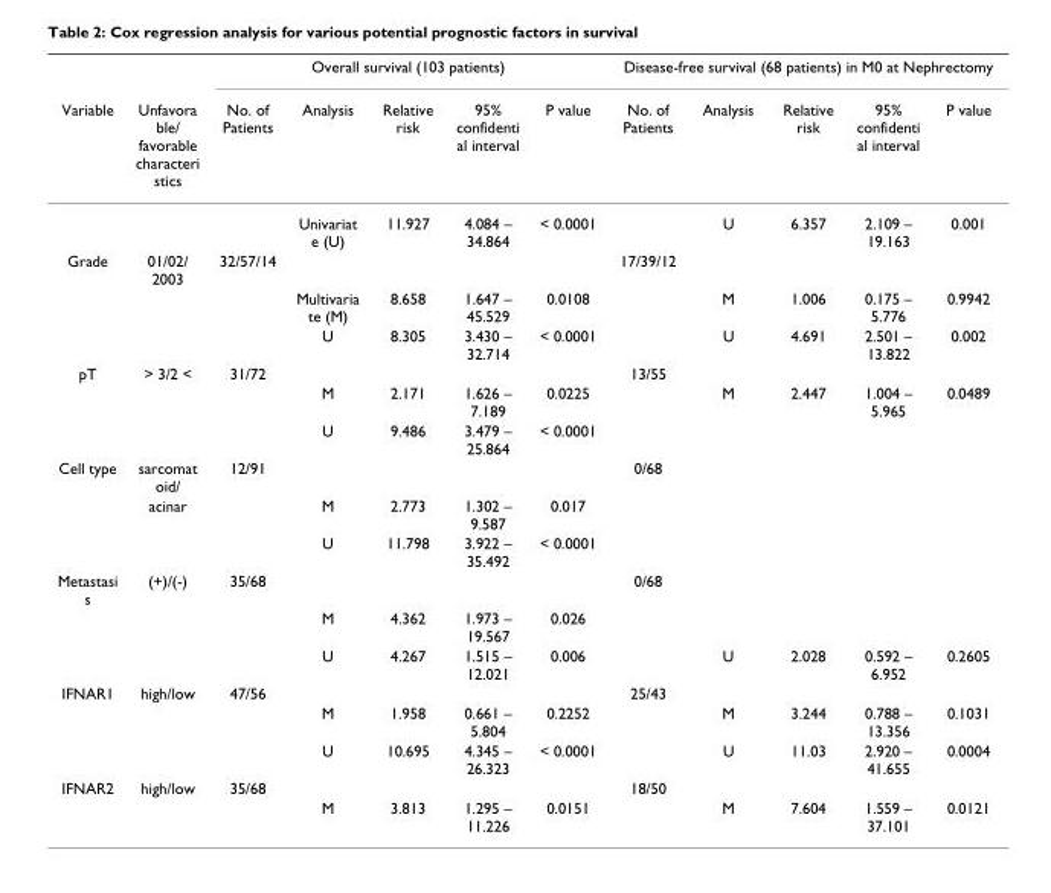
<table><thead><tr><td rowspan="2">Variable</td><td rowspan="2">Unfavora ble/ favorable characteri stics</td><td colspan="5">Overall survival (103 patients)</td><td colspan="5">Disease-free survival (68 patients) in M0 at Nephrectomy</td></tr><tr><td>No. of Patients</td><td>Analysis</td><td>Relative risk</td><td>95% confidenti al interval</td><td>P value</td><td>No. of Patients</td><td>Analysis</td><td>Relative risk</td><td>95% confidenti al interval</td><td>P value</td></tr></thead><tbody><tr><td></td><td></td><td></td><td>Univariat e (U)</td><td>11.927</td><td>4.084 – 34.864</td><td>&lt; 0.0001</td><td></td><td>U</td><td>6.357</td><td>2.109 – 19.163</td><td>0.001</td></tr><tr><td rowspan="3">Grade</td><td>01/02/ 2003</td><td>32/57/14</td><td></td><td></td><td></td><td></td><td>17/39/12</td><td></td><td></td><td></td><td></td></tr><tr><td></td><td></td><td>Multivaria te (M)</td><td>8.658</td><td>1.647 – 45.529</td><td>0.0108</td><td></td><td>M</td><td>1.006</td><td>0.175 – 5.776</td><td>0.9942</td></tr><tr><td></td><td></td><td>U</td><td>8.305</td><td>3.430 – 32.714</td><td>&lt; 0.0001</td><td></td><td>U</td><td>4.691</td><td>2.501 – 13.822</td><td>0.002</td></tr><tr><td rowspan="3">pT</td><td>&gt; 3/2 &lt;</td><td>31/72</td><td></td><td></td><td></td><td></td><td>13/55</td><td></td><td></td><td></td><td></td></tr><tr><td></td><td></td><td>M</td><td>2.171</td><td>1.626 – 7.189</td><td>0.0225</td><td></td><td>M</td><td>2.447</td><td>1.004 – 5.965</td><td>0.0489</td></tr><tr><td></td><td></td><td>U</td><td>9.486</td><td>3.479 – 25.864</td><td>&lt; 0.0001</td><td></td><td></td><td></td><td></td><td></td></tr><tr><td rowspan="3">Cell type</td><td>sarcomat oid/</td><td>12/91</td><td></td><td></td><td></td><td></td><td>0/68</td><td></td><td></td><td></td><td></td></tr><tr><td>acinar</td><td></td><td>M</td><td>2.773</td><td>1.302 – 9.587</td><td>0.017</td><td></td><td></td><td></td><td></td><td></td></tr><tr><td></td><td></td><td>U</td><td>11.798</td><td>3.922 – 35.492</td><td>&lt; 0.0001</td><td></td><td></td><td></td><td></td><td></td></tr><tr><td rowspan="3">Metastasi s</td><td>(+)/(-)</td><td>35/68</td><td></td><td></td><td></td><td></td><td>0/68</td><td></td><td></td><td></td><td></td></tr><tr><td></td><td></td><td>M</td><td>4.362</td><td>1.973 – 19.567</td><td>0.026</td><td></td><td></td><td></td><td></td><td></td></tr><tr><td></td><td></td><td>U</td><td>4.267</td><td>1.515 – 12.021</td><td>0.006</td><td></td><td>U</td><td>2.028</td><td>0.592 – 6.952</td><td>0.2605</td></tr><tr><td rowspan="3">IFNAR1</td><td>high/low</td><td>47/56</td><td></td><td></td><td></td><td></td><td>25/43</td><td></td><td></td><td></td><td></td></tr><tr><td></td><td></td><td>M</td><td>1.958</td><td>0.661 – 5.804</td><td>0.2252</td><td></td><td>M</td><td>3.244</td><td>0.788 – 13.356</td><td>0.1031</td></tr><tr><td></td><td></td><td>U</td><td>10.695</td><td>4.345 – 26.323</td><td>&lt; 0.0001</td><td></td><td>U</td><td>11.03</td><td>2.920 – 41.655</td><td>0.0004</td></tr><tr><td rowspan="2">IFNAR2</td><td>high/low</td><td>35/68</td><td></td><td></td><td></td><td></td><td>18/50</td><td></td><td></td><td></td><td></td></tr><tr><td></td><td></td><td>M</td><td>3.813</td><td>1.295 – 11.226</td><td>0.0151</td><td></td><td>M</td><td>7.604</td><td>1.559 – 37.101</td><td>0.0121</td></tr></tbody></table>